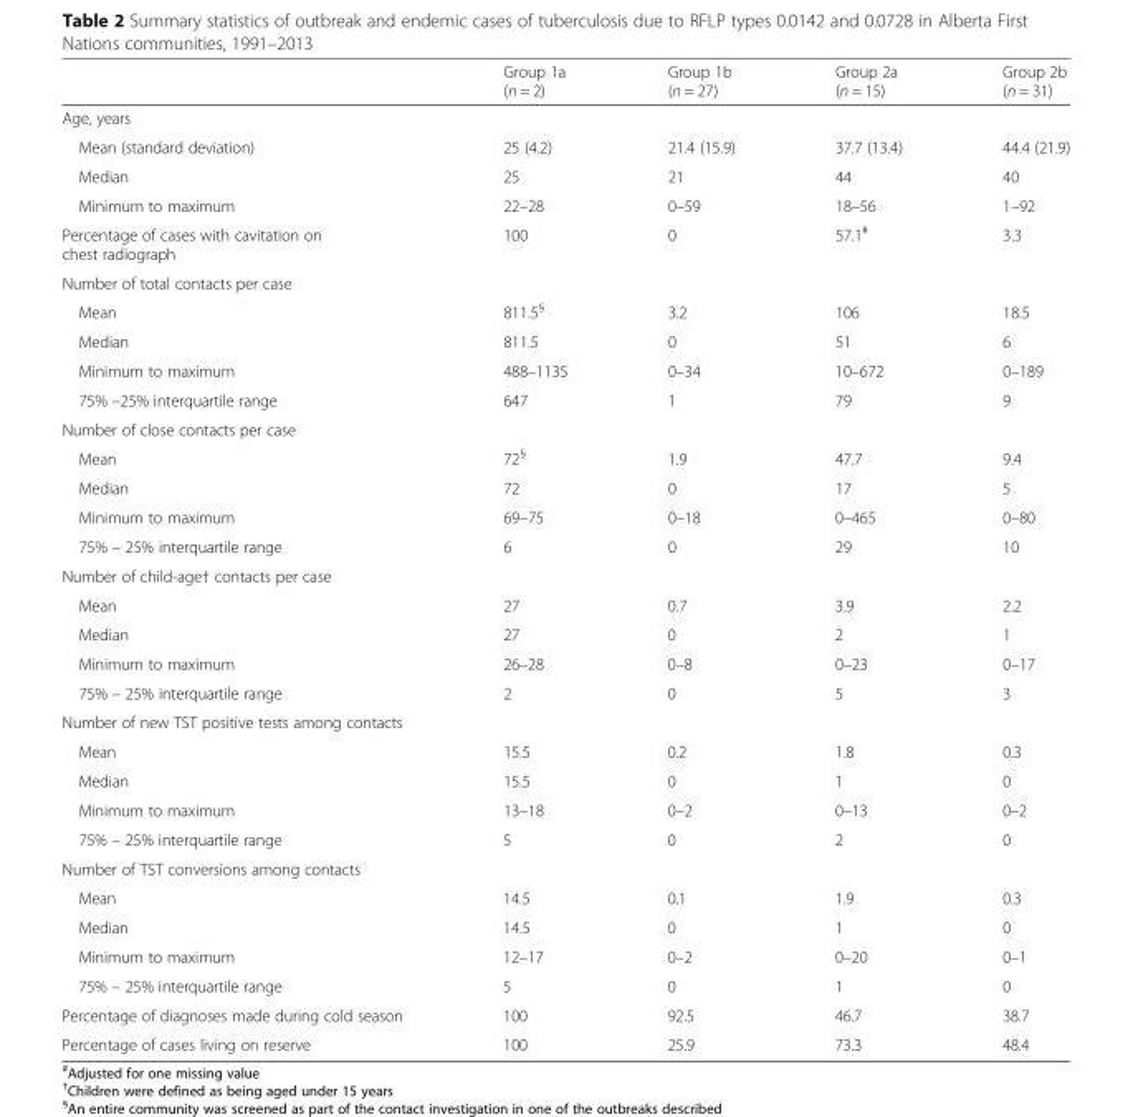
<table><thead><tr><td></td><td>Group 1a (n = 2)</td><td>Group 1b (n = 27)</td><td>Group 2a (n = 15)</td><td>Group 2b (n = 31)</td></tr></thead><tbody><tr><td colspan="5">Age, years</td></tr><tr><td>Mean (standard deviation)</td><td>25 (4.2)</td><td>21.4 (15.9)</td><td>37.7 (13.4)</td><td>44.4 (21.9)</td></tr><tr><td>Median</td><td>25</td><td>21</td><td>44</td><td>40</td></tr><tr><td>Minimum to maximum</td><td>22–28</td><td>0–59</td><td>18–56</td><td>1–92</td></tr><tr><td>Percentage of cases with cavitation on chest radiograph</td><td>100</td><td>0</td><td>57.1<sup>#</sup></td><td>3.3</td></tr><tr><td colspan="5">Number of total contacts per case</td></tr><tr><td>Mean</td><td>811.5<sup>§</sup></td><td>3.2</td><td>106</td><td>18.5</td></tr><tr><td>Median</td><td>811.5</td><td>0</td><td>51</td><td>6</td></tr><tr><td>Minimum to maximum</td><td>488–1135</td><td>0–34</td><td>10–672</td><td>0–189</td></tr><tr><td>75% –25% interquartile range</td><td>647</td><td>1</td><td>79</td><td>9</td></tr><tr><td colspan="5">Number of close contacts per case</td></tr><tr><td>Mean</td><td>72<sup>§</sup></td><td>1.9</td><td>47.7</td><td>9.4</td></tr><tr><td>Median</td><td>72</td><td>0</td><td>17</td><td>5</td></tr><tr><td>Minimum to maximum</td><td>69–75</td><td>0–18</td><td>0–465</td><td>0–80</td></tr><tr><td>75% – 25% interquartile range</td><td>6</td><td>0</td><td>29</td><td>10</td></tr><tr><td colspan="5">Number of child-age† contacts per case</td></tr><tr><td>Mean</td><td>27</td><td>0.7</td><td>3.9</td><td>2.2</td></tr><tr><td>Median</td><td>27</td><td>0</td><td>2</td><td>1</td></tr><tr><td>Minimum to maximum</td><td>26–28</td><td>0–8</td><td>0–23</td><td>0–17</td></tr><tr><td>75% – 25% interquartile range</td><td>2</td><td>0</td><td>5</td><td>3</td></tr><tr><td colspan="5">Number of new TST positive tests among contacts</td></tr><tr><td>Mean</td><td>15.5</td><td>0.2</td><td>1.8</td><td>0.3</td></tr><tr><td>Median</td><td>15.5</td><td>0</td><td>1</td><td>0</td></tr><tr><td>Minimum to maximum</td><td>13–18</td><td>0–2</td><td>0–13</td><td>0–2</td></tr><tr><td>75% – 25% interquartile range</td><td>5</td><td>0</td><td>2</td><td>0</td></tr><tr><td colspan="5">Number of TST conversions among contacts</td></tr><tr><td>Mean</td><td>14.5</td><td>0.1</td><td>1.9</td><td>0.3</td></tr><tr><td>Median</td><td>14.5</td><td>0</td><td>1</td><td>0</td></tr><tr><td>Minimum to maximum</td><td>12–17</td><td>0–2</td><td>0–20</td><td>0–1</td></tr><tr><td>75% – 25% interquartile range</td><td>5</td><td>0</td><td>1</td><td>0</td></tr><tr><td>Percentage of diagnoses made during cold season</td><td>100</td><td>92.5</td><td>46.7</td><td>38.7</td></tr><tr><td>Percentage of cases living on reserve</td><td>100</td><td>25.9</td><td>73.3</td><td>48.4</td></tr></tbody></table>